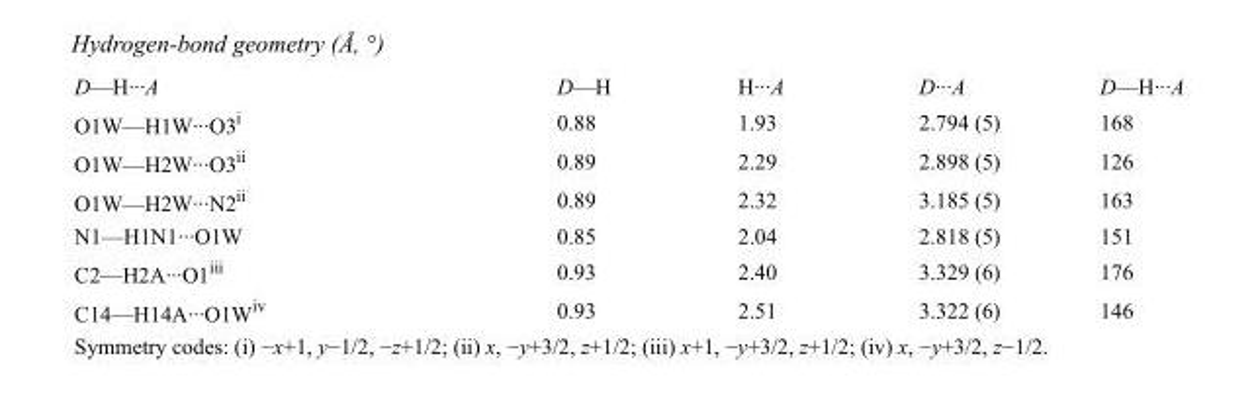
<table><tbody><tr><td>D—H···A</td><td>D—H</td><td>H···A</td><td>D···A</td><td>D—H···A</td></tr><tr><td>O1W—H1W···O3<sup>i</sup></td><td>0.88</td><td>1.93</td><td>2.794 (5)</td><td>168</td></tr><tr><td>O1W—H2W···O3<sup>ii</sup></td><td>0.89</td><td>2.29</td><td>2.898 (5)</td><td>126</td></tr><tr><td>O1W—H2W···N2<sup>ii</sup></td><td>0.89</td><td>2.32</td><td>3.185 (5)</td><td>163</td></tr><tr><td>N1—H1N1···O1W</td><td>0.85</td><td>2.04</td><td>2.818 (5)</td><td>151</td></tr><tr><td>C2—H2A···O1<sup>iii</sup></td><td>0.93</td><td>2.40</td><td>3.329 (6)</td><td>176</td></tr><tr><td>C14—H14A···O1W<sup>iv</sup></td><td>0.93</td><td>2.51</td><td>3.322 (6)</td><td>146</td></tr></tbody></table>